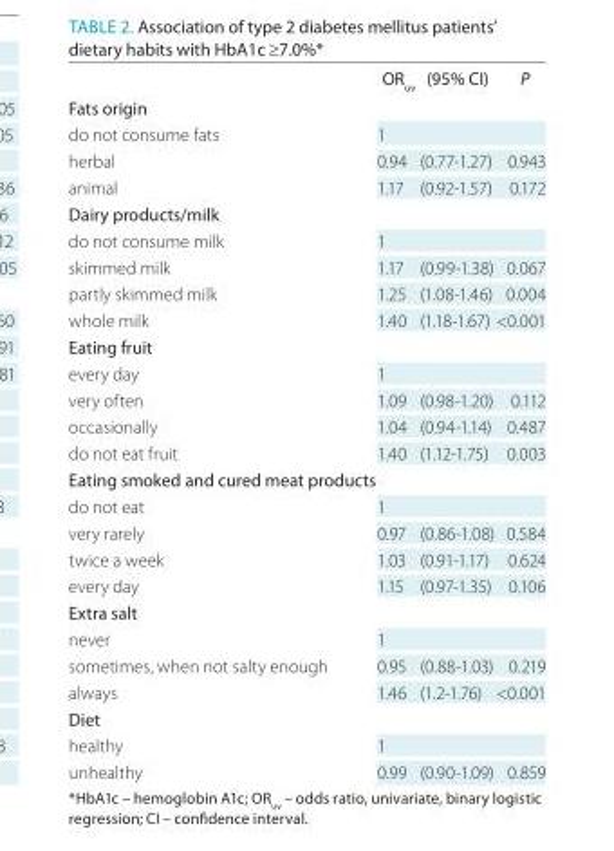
<table><thead><tr><td></td><td>oR<sub>uv</sub></td><td>(95% ci)</td><td>P</td></tr></thead><tbody><tr><td colspan="4">Fats origin</td></tr><tr><td>do not consume fats</td><td>1</td><td></td><td></td></tr><tr><td>herbal</td><td>0.94</td><td>(0.77-1.27)</td><td>0.943</td></tr><tr><td>animal</td><td>1.17</td><td>(0.92-1.57)</td><td>0.172</td></tr><tr><td colspan="4">Dairy products/milk</td></tr><tr><td>do not consume milk</td><td>1</td><td></td><td></td></tr><tr><td>skimmed milk</td><td>1.17</td><td>(0.99-1.38)</td><td>0.067</td></tr><tr><td>partly skimmed milk</td><td>1.25</td><td>(1.08-1.46)</td><td>0.004</td></tr><tr><td>whole milk</td><td>1.40</td><td>(1.18-1.67)</td><td>&lt;0.001</td></tr><tr><td colspan="4">eating fruit</td></tr><tr><td>every day</td><td>1</td><td></td><td></td></tr><tr><td>very often</td><td>1.09</td><td>(0.98-1.20)</td><td>0.112</td></tr><tr><td>occasionally</td><td>1.04</td><td>(0.94-1.14)</td><td>0.487</td></tr><tr><td>do not eat fruit</td><td>1.40</td><td>(1.12-1.75)</td><td>0.003</td></tr><tr><td colspan="4">eating smoked and cured meat products</td></tr><tr><td>do not eat</td><td>1</td><td></td><td></td></tr><tr><td>very rarely</td><td>0.97</td><td>(0.86-1.08)</td><td>0.584</td></tr><tr><td>twice a week</td><td>1.03</td><td>(0.91-1.17)</td><td>0.624</td></tr><tr><td>every day</td><td>1.15</td><td>(0.97-1.35)</td><td>0.106</td></tr><tr><td colspan="4">extra salt</td></tr><tr><td>never</td><td>1</td><td></td><td></td></tr><tr><td>sometimes, when not salty enough</td><td>0.95</td><td>(0.88-1.03)</td><td>0.219</td></tr><tr><td>always</td><td>1.46</td><td>(1.2-1.76)</td><td>&lt;0.001</td></tr><tr><td colspan="4">Diet</td></tr><tr><td>healthy</td><td>1</td><td></td><td></td></tr><tr><td>unhealthy</td><td>0.99</td><td>(0.90-1.09)</td><td>0.859</td></tr></tbody></table>